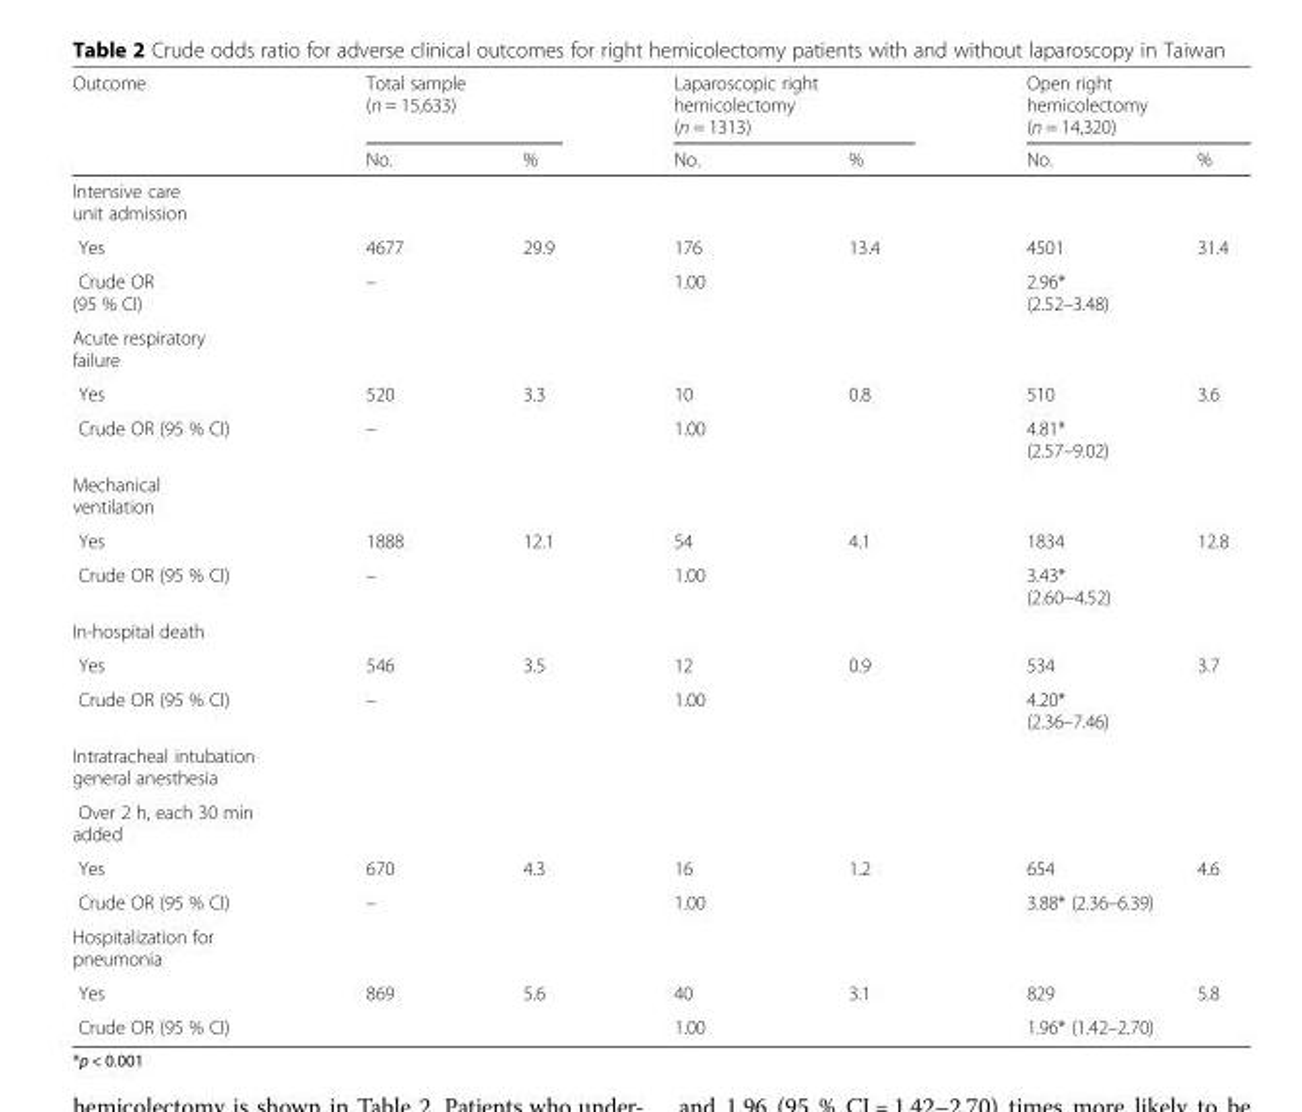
<table><thead><tr><td rowspan="2">Outcome</td><td colspan="2">Total sample (n = 15,633)</td><td colspan="2">Laparoscopic right hemicolectomy (n = 1313)</td><td colspan="2">Open right hemicolectomy (n = 14,320)</td></tr><tr><td>No.</td><td>%</td><td>No.</td><td>%</td><td>No.</td><td>%</td></tr></thead><tbody><tr><td colspan="7">Intensive care unit admission</td></tr><tr><td>Yes</td><td>4677</td><td>29.9</td><td>176</td><td>13.4</td><td>4501</td><td>31.4</td></tr><tr><td>Crude OR (95 % CI)</td><td colspan="2">–</td><td colspan="2">1.00</td><td colspan="2">2.96* (2.52–3.48)</td></tr><tr><td colspan="7">Acute respiratory failure</td></tr><tr><td>Yes</td><td>520</td><td>3.3</td><td>10</td><td>0.8</td><td>510</td><td>3.6</td></tr><tr><td>Crude OR (95 % CI)</td><td colspan="2">–</td><td colspan="2">1.00</td><td colspan="2">4.81* (2.57–9.02)</td></tr><tr><td colspan="7">Mechanical ventilation</td></tr><tr><td>Yes</td><td>1888</td><td>12.1</td><td>54</td><td>4.1</td><td>1834</td><td>12.8</td></tr><tr><td>Crude OR (95 % CI)</td><td colspan="2">–</td><td colspan="2">1.00</td><td colspan="2">3.43* (2.60~4.52)</td></tr><tr><td colspan="7">In-hospital death</td></tr><tr><td>Yes</td><td>546</td><td>3.5</td><td>12</td><td>0.9</td><td>534</td><td>3.7</td></tr><tr><td>Crude OR (95 % CI)</td><td colspan="2">–</td><td colspan="2">1.00</td><td colspan="2">4.20* (2.36–7.46)</td></tr><tr><td colspan="7">Intratracheal intubation general anesthesia</td></tr><tr><td colspan="7">Over 2 h, each 30 min added</td></tr><tr><td>Yes</td><td>670</td><td>4.3</td><td>16</td><td>1.2</td><td>654</td><td>4.6</td></tr><tr><td>Crude OR (95 % CI)</td><td colspan="2">–</td><td colspan="2">1.00</td><td colspan="2">3.88* (2.36–6.39)</td></tr><tr><td colspan="7">Hospitalization for pneumonia</td></tr><tr><td>Yes</td><td>869</td><td>5.6</td><td>40</td><td>3.1</td><td>829</td><td>5.8</td></tr><tr><td>Crude OR (95 % CI)</td><td colspan="2"></td><td colspan="2">1.00</td><td colspan="2">1.96* (1.42–2.70)</td></tr></tbody></table>